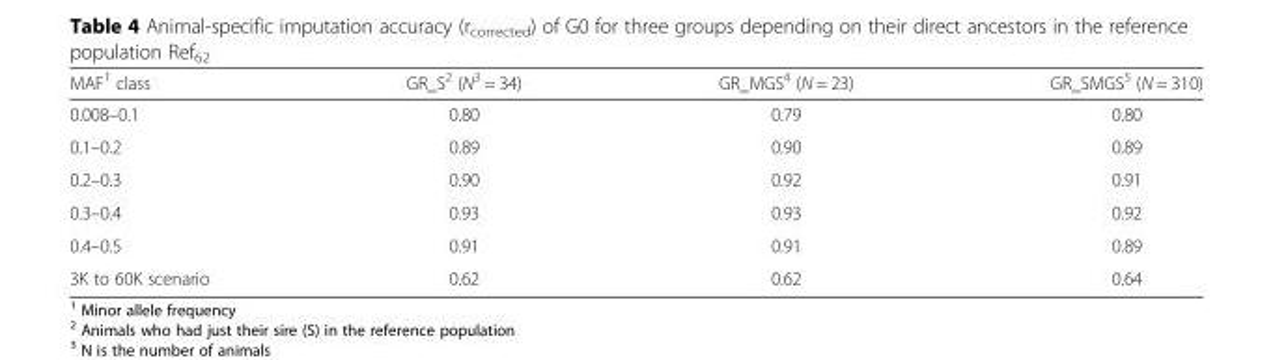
<table><thead><tr><td>MAF<sup>1</sup> class</td><td>GR_S<sup>2</sup> (N<sup>3</sup> = 34)</td><td>GR_MGS<sup>4</sup> (N = 23)</td><td>GR_SMGS<sup>5</sup> (N = 310)</td></tr></thead><tbody><tr><td>0.008–0.1</td><td>0.80</td><td>0.79</td><td>0.80</td></tr><tr><td>0.1–0.2</td><td>0.89</td><td>0.90</td><td>0.89</td></tr><tr><td>0.2–0.3</td><td>0.90</td><td>0.92</td><td>0.91</td></tr><tr><td>0.3–0.4</td><td>0.93</td><td>0.93</td><td>0.92</td></tr><tr><td>0.4–0.5</td><td>0.91</td><td>0.91</td><td>0.89</td></tr><tr><td>3K to 60K scenario</td><td>0.62</td><td>0.62</td><td>0.64</td></tr></tbody></table>